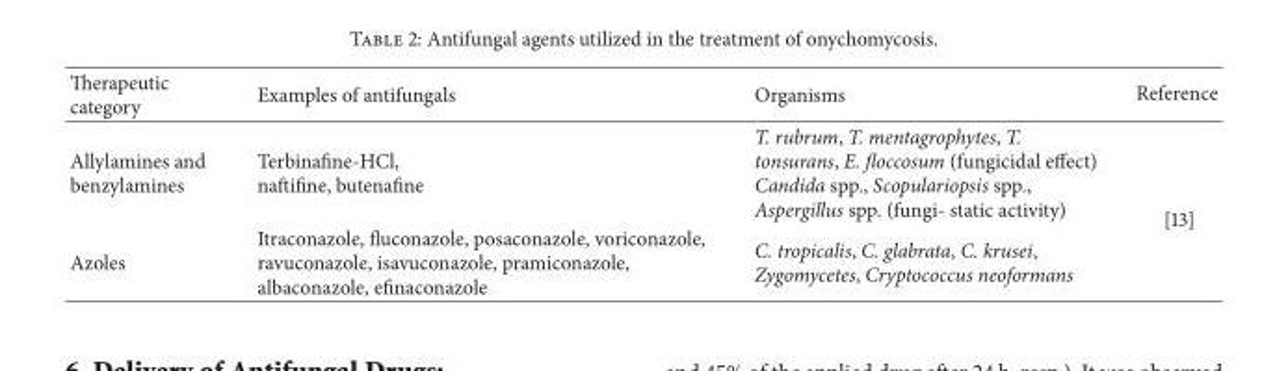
<table><thead><tr><td>Therapeutic category</td><td>Examples of antifungals</td><td>Organisms</td><td>Reference</td></tr></thead><tbody><tr><td>Allylamines and benzylamines</td><td>Terbinafine-HCl, naftifine, butenafine</td><td>T. rubrum, T. mentagrophytes, T. tonsurans, E. floccosum (fungicidal effect) Candida spp., Scopulariopsis spp., Aspergillus spp. (fungi- static activity)</td><td rowspan="2">[13]</td></tr><tr><td>Azoles</td><td>Itraconazole, fluconazole, posaconazole, voriconazole, ravuconazole, isavuconazole, pramiconazole, albaconazole, efinaconazole</td><td>C. tropicalis, C. glabrata, C. krusei, Zygomycetes, Cryptococcus neoformans</td></tr></tbody></table>